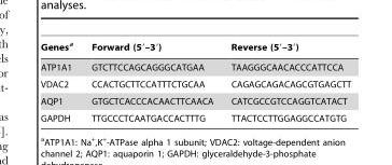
<table><thead><tr><td>Genes<sup>a</sup></td><td>Forward (5′–3′)</td><td>Reverse (5′–3′)</td></tr></thead><tbody><tr><td>ATP1A1</td><td>GTCTTCCAGCAGGGCATGAA</td><td>TAAGGGCAACACCCATTCCA</td></tr><tr><td>VDAC2</td><td>CCACTGCTTCCATTTCTGCAA</td><td>CAGAGCAGACAGCGTGAGCTT</td></tr><tr><td>AQP1</td><td>GTGCTCACCCACAACTTCAACA</td><td>CATCGCCGTCCAGGTCATACT</td></tr><tr><td>GAPDH</td><td>TTGCCCTCAATGACCACTTTG</td><td>TTACTCCTTGGAGGCCATGTG</td></tr></tbody></table>